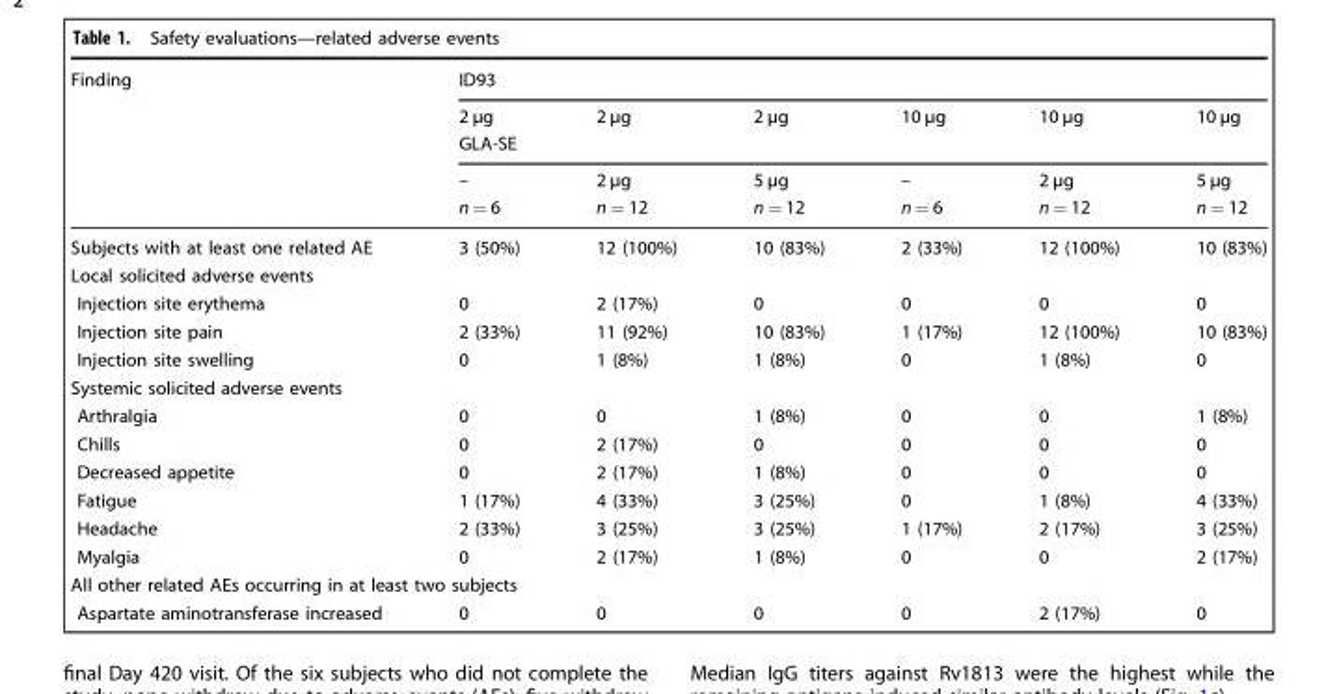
<table><thead><tr><td rowspan="5">Finding</td><td colspan="6">ID93</td></tr><tr><td>2 µg</td><td>2 µg</td><td>2 µg</td><td>10 µg</td><td>10 µg</td><td>10 µg</td></tr><tr><td colspan="6">GLA-SE</td></tr><tr><td rowspan="2">– n = 6</td><td rowspan="2">2 µg n = 12</td><td rowspan="2">5 µg n = 12</td><td rowspan="2">– n = 6</td><td rowspan="2">2 µg n = 12</td><td rowspan="2">5 µg n = 12</td></tr><tr></tr></thead><tbody><tr><td>Subjects with at least one related AE</td><td>3 (50%)</td><td>12 (100%)</td><td>10 (83%)</td><td>2 (33%)</td><td>12 (100%)</td><td>10 (83%)</td></tr><tr><td colspan="7">Local solicited adverse events</td></tr><tr><td>Injection site erythema</td><td>0</td><td>2 (17%)</td><td>0</td><td>0</td><td>0</td><td>0</td></tr><tr><td>Injection site pain</td><td>2 (33%)</td><td>11 (92%)</td><td>10 (83%)</td><td>1 (17%)</td><td>12 (100%)</td><td>10 (83%)</td></tr><tr><td>Injection site swelling</td><td>0</td><td>1 (8%)</td><td>1 (8%)</td><td>0</td><td>1 (8%)</td><td>0</td></tr><tr><td colspan="7">Systemic solicited adverse events</td></tr><tr><td>Arthralgia</td><td>0</td><td>0</td><td>1 (8%)</td><td>0</td><td>0</td><td>1 (8%)</td></tr><tr><td>Chills</td><td>0</td><td>2 (17%)</td><td>0</td><td>0</td><td>0</td><td>0</td></tr><tr><td>Decreased appetite</td><td>0</td><td>2 (17%)</td><td>1 (8%)</td><td>0</td><td>0</td><td>0</td></tr><tr><td>Fatigue</td><td>1 (17%)</td><td>4 (33%)</td><td>3 (25%)</td><td>0</td><td>1 (8%)</td><td>4 (33%)</td></tr><tr><td>Headache</td><td>2 (33%)</td><td>3 (25%)</td><td>3 (25%)</td><td>1 (17%)</td><td>2 (17%)</td><td>3 (25%)</td></tr><tr><td>Myalgia</td><td>0</td><td>2 (17%)</td><td>1 (8%)</td><td>0</td><td>0</td><td>2 (17%)</td></tr><tr><td colspan="7">All other related AEs occurring in at least two subjects</td></tr><tr><td>Aspartate aminotransferase increased</td><td>0</td><td>0</td><td>0</td><td>0</td><td>2 (17%)</td><td>0</td></tr></tbody></table>